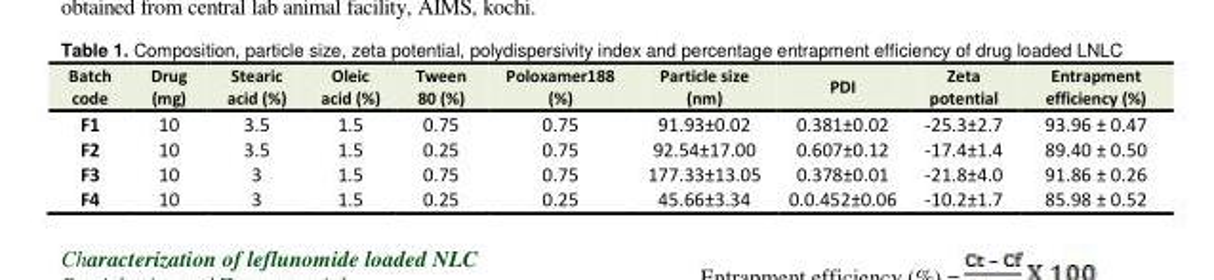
<table><tbody><tr><td>Batch code</td><td>Drug (mg)</td><td>Stearic acid (%)</td><td>Oleic acid (%)</td><td>Tween 80 (%)</td><td>Poloxamer188 (%)</td><td>Particle size (nm)</td><td>PDI</td><td>Zeta potential</td><td>Entrapment efficiency (%)</td></tr><tr><td>F1</td><td>10</td><td>3.5</td><td>1.5</td><td>0.75</td><td>0.75</td><td>91.93±0.02</td><td>0.381±0.02</td><td>-25.3±2.7</td><td>93.96 ± 0.47</td></tr><tr><td>F2</td><td>10</td><td>3.5</td><td>1.5</td><td>0.25</td><td>0.75</td><td>92.54±17.00</td><td>0.607±0.12</td><td>-17.4±1.4</td><td>89.40 ± 0.50</td></tr><tr><td>F3</td><td>10</td><td>3</td><td>1.5</td><td>0.75</td><td>0.75</td><td>177.33±13.05</td><td>0.378±0.01</td><td>-21.8±4.0</td><td>91.86 ± 0.26</td></tr><tr><td>F4</td><td>10</td><td>3</td><td>1.5</td><td>0.25</td><td>0.25</td><td>45.66±3.34</td><td>0.0.452±0.06</td><td>-10.2±1.7</td><td>85.98 ± 0.52</td></tr></tbody></table>